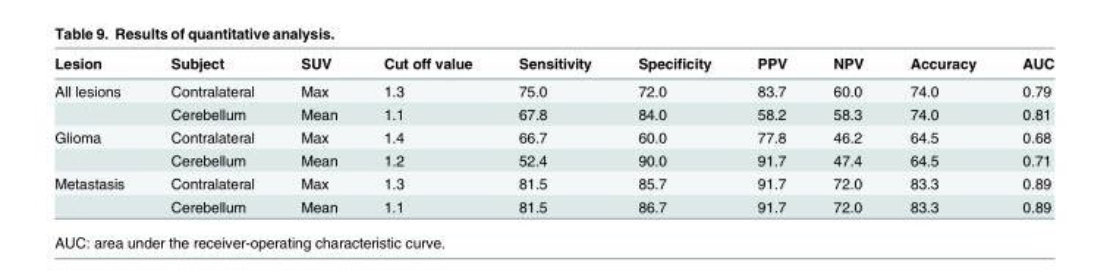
<table><thead><tr><td>Lesion</td><td>Subject</td><td>SUV</td><td>Cut off value</td><td>Sensitivity</td><td>Specificity</td><td>PPV</td><td>NPV</td><td>Accuracy</td><td>AUC</td></tr></thead><tbody><tr><td rowspan="2">All lesions</td><td>Contralateral</td><td>Max</td><td>1.3</td><td>75.0</td><td>72.0</td><td>83.7</td><td>60.0</td><td>74.0</td><td>0.79</td></tr><tr><td>Cerebellum</td><td>Mean</td><td>1.1</td><td>67.8</td><td>84.0</td><td>58.2</td><td>58.3</td><td>74.0</td><td>0.81</td></tr><tr><td rowspan="2">Glioma</td><td>Contralateral</td><td>Max</td><td>1.4</td><td>66.7</td><td>60.0</td><td>77.8</td><td>46.2</td><td>64.5</td><td>0.68</td></tr><tr><td>Cerebellum</td><td>Mean</td><td>1.2</td><td>52.4</td><td>90.0</td><td>91.7</td><td>47.4</td><td>64.5</td><td>0.71</td></tr><tr><td rowspan="2">Metastasis</td><td>Contralateral</td><td>Max</td><td>1.3</td><td>81.5</td><td>85.7</td><td>91.7</td><td>72.0</td><td>83.3</td><td>0.89</td></tr><tr><td>Cerebellum</td><td>Mean</td><td>1.1</td><td>81.5</td><td>86.7</td><td>91.7</td><td>72.0</td><td>83.3</td><td>0.89</td></tr></tbody></table>